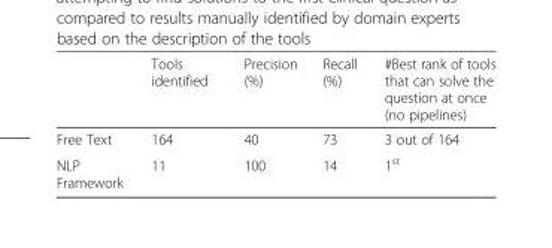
<table><thead><tr><td></td><td>Tools identified</td><td>Precision (%)</td><td>Recall (%)</td><td>#Best rank of tools that can solve the question at once (no pipelines)</td></tr></thead><tbody><tr><td>Free Text</td><td>164</td><td>40</td><td>73</td><td>3 out of 164</td></tr><tr><td>NLP Framework</td><td>11</td><td>100</td><td>14</td><td>1<sup>st</sup></td></tr></tbody></table>